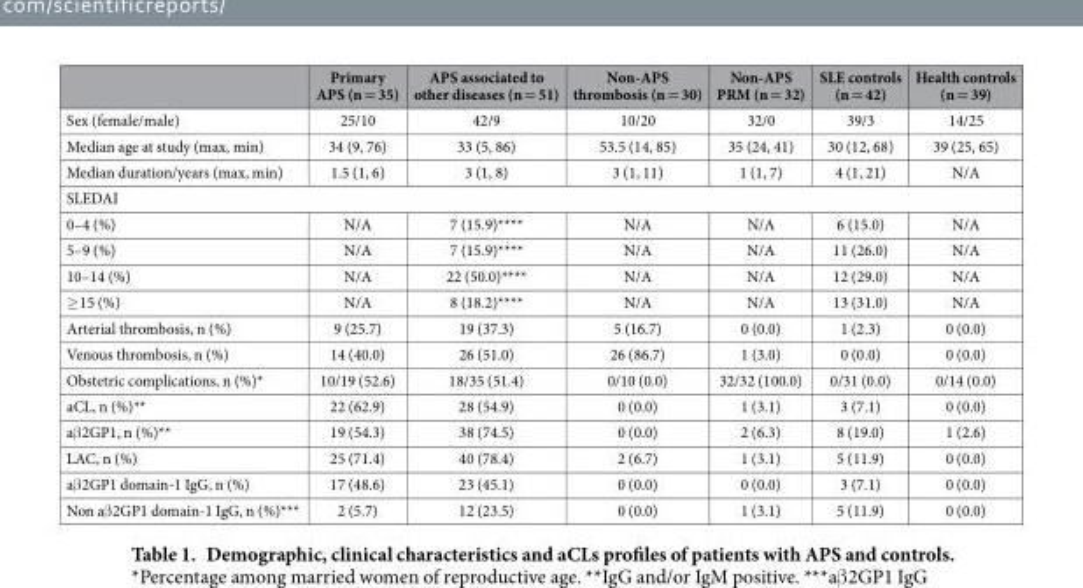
<table><thead><tr><td></td><td>Primary APS (n = 35)</td><td>APS associated to other diseases (n = 51)</td><td>Non-APS thrombosis (n = 30)</td><td>Non-APS PRM (n = 32)</td><td>SLE controls (n = 42)</td><td>Health controls (n = 39)</td></tr></thead><tbody><tr><td>Sex (female/male)</td><td>25/10</td><td>42/9</td><td>10/20</td><td>32/0</td><td>39/3</td><td>14/25</td></tr><tr><td>Median age at study (max, min)</td><td>34 (9, 76)</td><td>33 (5, 86)</td><td>53.5 (14, 85)</td><td>35 (24, 41)</td><td>30 (12, 68)</td><td>39 (25, 65)</td></tr><tr><td>Median duration/years (max, min)</td><td>1.5 (1, 6)</td><td>3 (1, 8)</td><td>3 (1, 11)</td><td>1 (1, 7)</td><td>4 (1, 21)</td><td>N/A</td></tr><tr><td colspan="7">SLEDAI</td></tr><tr><td>0–4 (%)</td><td>N/A</td><td>7 (15.9)****</td><td>N/A</td><td>N/A</td><td>6 (15.0)</td><td>N/A</td></tr><tr><td>5–9 (%)</td><td>N/A</td><td>7 (15.9)****</td><td>N/A</td><td>N/A</td><td>11 (26.0)</td><td>N/A</td></tr><tr><td>10–14 (%)</td><td>N/A</td><td>22 (50.0)****</td><td>N/A</td><td>N/A</td><td>12 (29.0)</td><td>N/A</td></tr><tr><td>≥ 15 (%)</td><td>N/A</td><td>8 (18.2)****</td><td>N/A</td><td>N/A</td><td>13 (31.0)</td><td>N/A</td></tr><tr><td>Arterial thrombosis, n (%)</td><td>9 (25.7)</td><td>19 (37.3)</td><td>5 (16.7)</td><td>0 (0.0)</td><td>1 (2.3)</td><td>0 (0.0)</td></tr><tr><td>Venous thrombosis, n (%)</td><td>14 (40.0)</td><td>26 (51.0)</td><td>26 (86.7)</td><td>1 (3.0)</td><td>0 (0.0)</td><td>0 (0.0)</td></tr><tr><td>Obstetric complications, n (%)*</td><td>10/19 (52.6)</td><td>18/35 (51.4)</td><td>0/10 (0.0)</td><td>32/32 (100.0)</td><td>0/31 (0.0)</td><td>0/14 (0.0)</td></tr><tr><td>aCL, n (%)**</td><td>22 (62.9)</td><td>28 (54.9)</td><td>0 (0.0)</td><td>1 (3.1)</td><td>3 (7.1)</td><td>0 (0.0)</td></tr><tr><td>aβ 2GP1, n (%)**</td><td>19 (54.3)</td><td>38 (74.5)</td><td>0 (0.0)</td><td>2 (6.3)</td><td>8 (19.0)</td><td>1 (2.6)</td></tr><tr><td>LAC, n (%)</td><td>25 (71.4)</td><td>40 (78.4)</td><td>2 (6.7)</td><td>1 (3.1)</td><td>5 (11.9)</td><td>0 (0.0)</td></tr><tr><td>aβ 2GP1 domain-1 IgG, n (%)</td><td>17 (48.6)</td><td>23 (45.1)</td><td>0 (0.0)</td><td>0 (0.0)</td><td>3 (7.1)</td><td>0 (0.0)</td></tr><tr><td>Non aβ 2GP1 domain-1 IgG, n (%)***</td><td>2 (5.7)</td><td>12 (23.5)</td><td>0 (0.0)</td><td>1 (3.1)</td><td>5 (11.9)</td><td>0 (0.0)</td></tr></tbody></table>